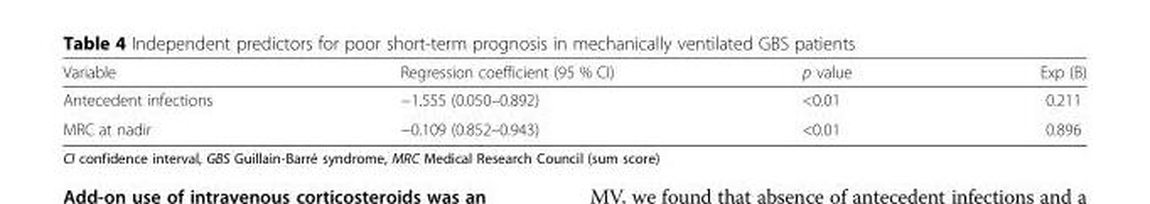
<table><thead><tr><td>Variable</td><td>Regression coefficient (95 % CI)</td><td>p value</td><td>Exp (B)</td></tr></thead><tbody><tr><td>Antecedent infections</td><td>−1.555 (0.050–0.892)</td><td>&lt;0.01</td><td>0.211</td></tr><tr><td>MRC at nadir</td><td>−0.109 (0.852–0.943)</td><td>&lt;0.01</td><td>0.896</td></tr></tbody></table>